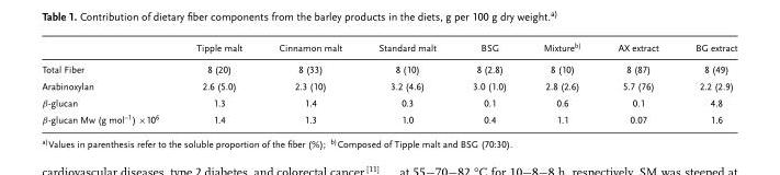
<table><thead><tr><td></td><td>Tipple malt</td><td>Cinnamon malt</td><td>Standard malt</td><td>BSG</td><td>Mixtureb)</td><td>AX extract</td><td>BG extract</td></tr></thead><tbody><tr><td>Total Fiber</td><td>8 (20)</td><td>8 (33)</td><td>8 (10)</td><td>8 (2.8)</td><td>8 (10)</td><td>8 (87)</td><td>8 (49)</td></tr><tr><td>Arabinoxylan</td><td>2.6 (5.0)</td><td>2.3 (10)</td><td>3.2 (4.6)</td><td>3.0 (1.0)</td><td>2.8 (2.6)</td><td>5.7 (76)</td><td>2.2 (2.9)</td></tr><tr><td>β-glucan</td><td>1.3</td><td>1.4</td><td>0.3</td><td>0.1</td><td>0.6</td><td>0.1</td><td>4.8</td></tr><tr><td>β-glucan Mw (g mol<sup>–1</sup>) ×10<sup>6</sup></td><td>1.4</td><td>1.3</td><td>1.0</td><td>0.4</td><td>1.1</td><td>0.07</td><td>1.6</td></tr></tbody></table>